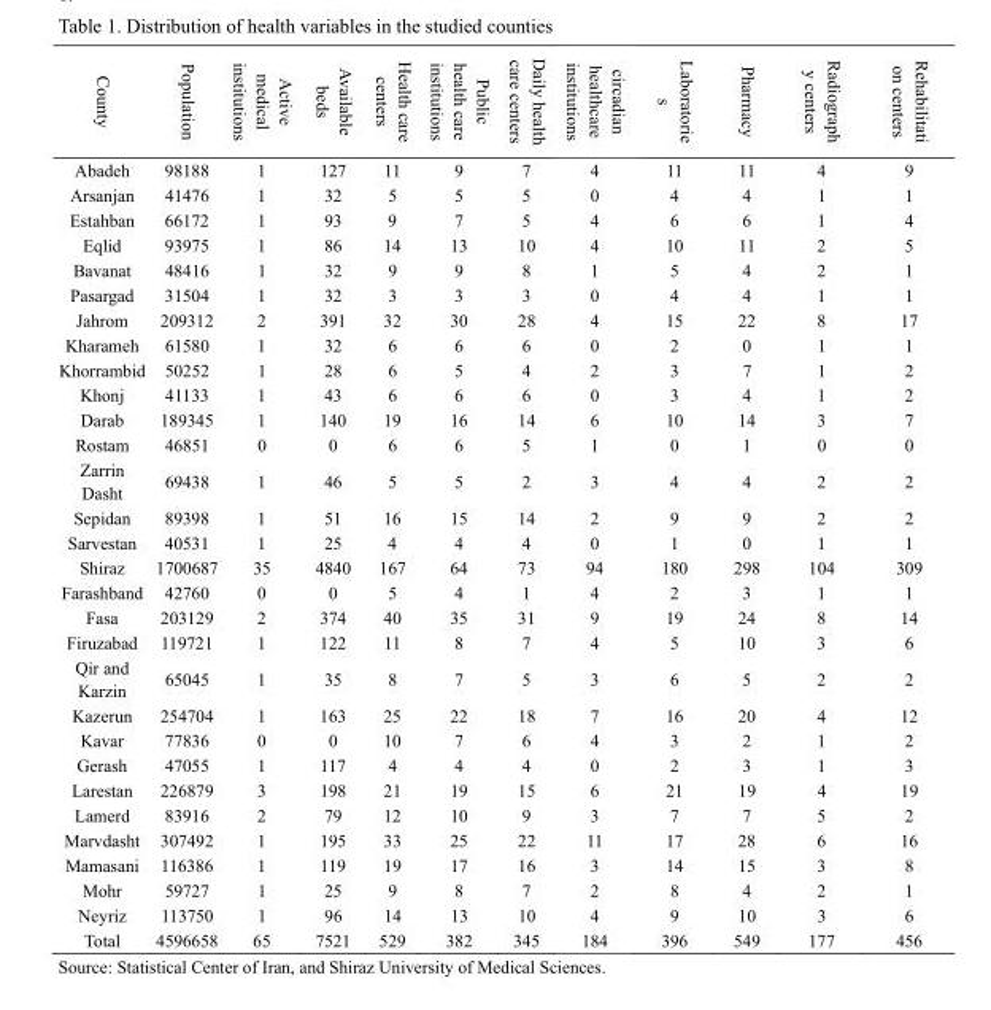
<table><thead><tr><td>County</td><td>Population</td><td>Active medical institutions</td><td>Available beds</td><td>Health care centers</td><td>Public health care institutions</td><td>Daily health care centers</td><td>circadian healthcare institutions</td><td>Laboratorie s</td><td>Pharmacy</td><td>Radiograph y centers</td><td>Rehabilitati on centers</td></tr></thead><tbody><tr><td>Abadeh</td><td>98188</td><td>1</td><td>127</td><td>11</td><td>9</td><td>7</td><td>4</td><td>11</td><td>11</td><td>4</td><td>9</td></tr><tr><td>Arsanjan</td><td>41476</td><td>1</td><td>32</td><td>5</td><td>5</td><td>5</td><td>0</td><td>4</td><td>4</td><td>1</td><td>1</td></tr><tr><td>Estahban</td><td>66172</td><td>1</td><td>93</td><td>9</td><td>7</td><td>5</td><td>4</td><td>6</td><td>6</td><td>1</td><td>4</td></tr><tr><td>Eqlid</td><td>93975</td><td>1</td><td>86</td><td>14</td><td>13</td><td>10</td><td>4</td><td>10</td><td>11</td><td>2</td><td>5</td></tr><tr><td>Bavanat</td><td>48416</td><td>1</td><td>32</td><td>9</td><td>9</td><td>8</td><td>1</td><td>5</td><td>4</td><td>2</td><td>1</td></tr><tr><td>Pasargad</td><td>31504</td><td>1</td><td>32</td><td>3</td><td>3</td><td>3</td><td>0</td><td>4</td><td>4</td><td>1</td><td>1</td></tr><tr><td>Jahrom</td><td>209312</td><td>2</td><td>391</td><td>32</td><td>30</td><td>28</td><td>4</td><td>15</td><td>22</td><td>8</td><td>17</td></tr><tr><td>Kharameh</td><td>61580</td><td>1</td><td>32</td><td>6</td><td>6</td><td>6</td><td>0</td><td>2</td><td>0</td><td>1</td><td>1</td></tr><tr><td>Khorrambid</td><td>50252</td><td>1</td><td>28</td><td>6</td><td>5</td><td>4</td><td>2</td><td>3</td><td>7</td><td>1</td><td>2</td></tr><tr><td>Khonj</td><td>41133</td><td>1</td><td>43</td><td>6</td><td>6</td><td>6</td><td>0</td><td>3</td><td>4</td><td>1</td><td>2</td></tr><tr><td>Darab</td><td>189345</td><td>1</td><td>140</td><td>19</td><td>16</td><td>14</td><td>6</td><td>10</td><td>14</td><td>3</td><td>7</td></tr><tr><td>Rostam</td><td>46851</td><td>0</td><td>0</td><td>6</td><td>6</td><td>5</td><td>1</td><td>0</td><td>1</td><td>0</td><td>0</td></tr><tr><td>Zarrin Dasht</td><td>69438</td><td>1</td><td>46</td><td>5</td><td>5</td><td>2</td><td>3</td><td>4</td><td>4</td><td>2</td><td>2</td></tr><tr><td>Sepidan</td><td>89398</td><td>1</td><td>51</td><td>16</td><td>15</td><td>14</td><td>2</td><td>9</td><td>9</td><td>2</td><td>2</td></tr><tr><td>Sarvestan</td><td>40531</td><td>1</td><td>25</td><td>4</td><td>4</td><td>4</td><td>0</td><td>1</td><td>0</td><td>1</td><td>1</td></tr><tr><td>Shiraz</td><td>1700687</td><td>35</td><td>4840</td><td>167</td><td>64</td><td>73</td><td>94</td><td>180</td><td>298</td><td>104</td><td>309</td></tr><tr><td>Farashband</td><td>42760</td><td>0</td><td>0</td><td>5</td><td>4</td><td>1</td><td>4</td><td>2</td><td>3</td><td>1</td><td>1</td></tr><tr><td>Fasa</td><td>203129</td><td>2</td><td>374</td><td>40</td><td>35</td><td>31</td><td>9</td><td>19</td><td>24</td><td>8</td><td>14</td></tr><tr><td>Firuzabad</td><td>119721</td><td>1</td><td>122</td><td>11</td><td>8</td><td>7</td><td>4</td><td>5</td><td>10</td><td>3</td><td>6</td></tr><tr><td>Qir and Karzin</td><td>65045</td><td>1</td><td>35</td><td>8</td><td>7</td><td>5</td><td>3</td><td>6</td><td>5</td><td>2</td><td>2</td></tr><tr><td>Kazerun</td><td>254704</td><td>1</td><td>163</td><td>25</td><td>22</td><td>18</td><td>7</td><td>16</td><td>20</td><td>4</td><td>12</td></tr><tr><td>Kavar</td><td>77836</td><td>0</td><td>0</td><td>10</td><td>7</td><td>6</td><td>4</td><td>3</td><td>2</td><td>1</td><td>2</td></tr><tr><td>Gerash</td><td>47055</td><td>1</td><td>117</td><td>4</td><td>4</td><td>4</td><td>0</td><td>2</td><td>3</td><td>1</td><td>3</td></tr><tr><td>Larestan</td><td>226879</td><td>3</td><td>198</td><td>21</td><td>19</td><td>15</td><td>6</td><td>21</td><td>19</td><td>4</td><td>19</td></tr><tr><td>Lamerd</td><td>83916</td><td>2</td><td>79</td><td>12</td><td>10</td><td>9</td><td>3</td><td>7</td><td>7</td><td>5</td><td>2</td></tr><tr><td>Marvdasht</td><td>307492</td><td>1</td><td>195</td><td>33</td><td>25</td><td>22</td><td>11</td><td>17</td><td>28</td><td>6</td><td>16</td></tr><tr><td>Mamasani</td><td>116386</td><td>1</td><td>119</td><td>19</td><td>17</td><td>16</td><td>3</td><td>14</td><td>15</td><td>3</td><td>8</td></tr><tr><td>Mohr</td><td>59727</td><td>1</td><td>25</td><td>9</td><td>8</td><td>7</td><td>2</td><td>8</td><td>4</td><td>2</td><td>1</td></tr><tr><td>Neyriz</td><td>113750</td><td>1</td><td>96</td><td>14</td><td>13</td><td>10</td><td>4</td><td>9</td><td>10</td><td>3</td><td>6</td></tr><tr><td>Total</td><td>4596658</td><td>65</td><td>7521</td><td>529</td><td>382</td><td>345</td><td>184</td><td>396</td><td>549</td><td>177</td><td>456</td></tr></tbody></table>